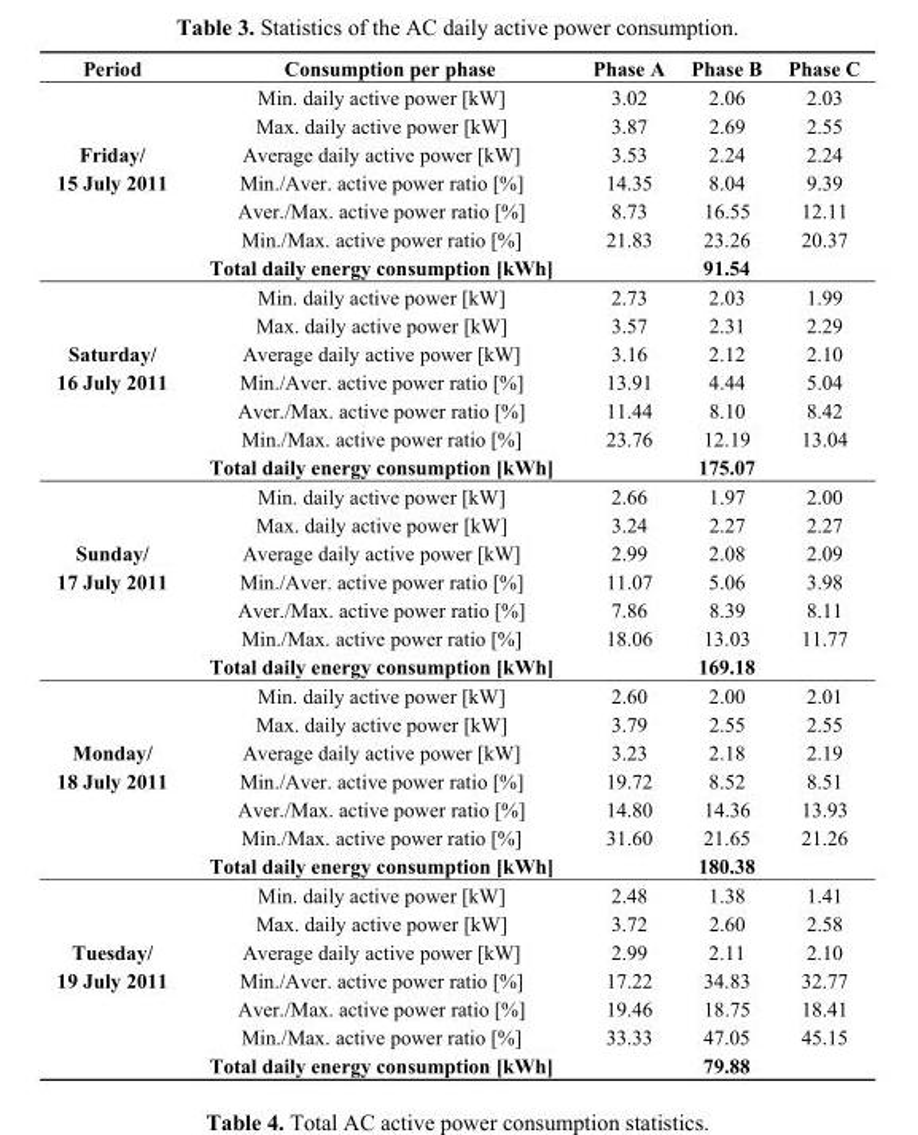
<table><thead><tr><td>Period</td><td>Consumption per phase</td><td>Phase A</td><td>Phase B</td><td>Phase C</td></tr></thead><tbody><tr><td rowspan="7">Friday/ 15 July 2011</td><td>Min. daily active power [kW]</td><td>3.02</td><td>2.06</td><td>2.03</td></tr><tr><td>Max. daily active power [kW]</td><td>3.87</td><td>2.69</td><td>2.55</td></tr><tr><td>Average daily active power [kW]</td><td>3.53</td><td>2.24</td><td>2.24</td></tr><tr><td>Min./Aver. active power ratio [%]</td><td>14.35</td><td>8.04</td><td>9.39</td></tr><tr><td>Aver./Max. active power ratio [%]</td><td>8.73</td><td>16.55</td><td>12.11</td></tr><tr><td>Min./Max. active power ratio [%]</td><td>21.83</td><td>23.26</td><td>20.37</td></tr><tr><td>Total daily energy consumption [kWh]</td><td colspan="3">91.54</td></tr><tr><td rowspan="7">Saturday/ 16 July 2011</td><td>Min. daily active power [kW]</td><td>2.73</td><td>2.03</td><td>1.99</td></tr><tr><td>Max. daily active power [kW]</td><td>3.57</td><td>2.31</td><td>2.29</td></tr><tr><td>Average daily active power [kW]</td><td>3.16</td><td>2.12</td><td>2.10</td></tr><tr><td>Min./Aver. active power ratio [%]</td><td>13.91</td><td>4.44</td><td>5.04</td></tr><tr><td>Aver./Max. active power ratio [%]</td><td>11.44</td><td>8.10</td><td>8.42</td></tr><tr><td>Min./Max. active power ratio [%]</td><td>23.76</td><td>12.19</td><td>13.04</td></tr><tr><td>Total daily energy consumption [kWh]</td><td colspan="3">175.07</td></tr><tr><td rowspan="7">Sunday/ 17 July 2011</td><td>Min. daily active power [kW]</td><td>2.66</td><td>1.97</td><td>2.00</td></tr><tr><td>Max. daily active power [kW]</td><td>3.24</td><td>2.27</td><td>2.27</td></tr><tr><td>Average daily active power [kW]</td><td>2.99</td><td>2.08</td><td>2.09</td></tr><tr><td>Min./Aver. active power ratio [%]</td><td>11.07</td><td>5.06</td><td>3.98</td></tr><tr><td>Aver./Max. active power ratio [%]</td><td>7.86</td><td>8.39</td><td>8.11</td></tr><tr><td>Min./Max. active power ratio [%]</td><td>18.06</td><td>13.03</td><td>11.77</td></tr><tr><td>Total daily energy consumption [kWh]</td><td colspan="3">169.18</td></tr><tr><td rowspan="7">Monday/ 18 July 2011</td><td>Min. daily active power [kW]</td><td>2.60</td><td>2.00</td><td>2.01</td></tr><tr><td>Max. daily active power [kW]</td><td>3.79</td><td>2.55</td><td>2.55</td></tr><tr><td>Average daily active power [kW]</td><td>3.23</td><td>2.18</td><td>2.19</td></tr><tr><td>Min./Aver. active power ratio [%]</td><td>19.72</td><td>8.52</td><td>8.51</td></tr><tr><td>Aver./Max. active power ratio [%]</td><td>14.80</td><td>14.36</td><td>13.93</td></tr><tr><td>Min./Max. active power ratio [%]</td><td>31.60</td><td>21.65</td><td>21.26</td></tr><tr><td>Total daily energy consumption [kWh]</td><td colspan="3">180.38</td></tr><tr><td rowspan="7">Tuesday/ 19 July 2011</td><td>Min. daily active power [kW]</td><td>2.48</td><td>1.38</td><td>1.41</td></tr><tr><td>Max. daily active power [kW]</td><td>3.72</td><td>2.60</td><td>2.58</td></tr><tr><td>Average daily active power [kW]</td><td>2.99</td><td>2.11</td><td>2.10</td></tr><tr><td>Min./Aver. active power ratio [%]</td><td>17.22</td><td>34.83</td><td>32.77</td></tr><tr><td>Aver./Max. active power ratio [%]</td><td>19.46</td><td>18.75</td><td>18.41</td></tr><tr><td>Min./Max. active power ratio [%]</td><td>33.33</td><td>47.05</td><td>45.15</td></tr><tr><td>Total daily energy consumption [kWh]</td><td colspan="3">79.88</td></tr></tbody></table>